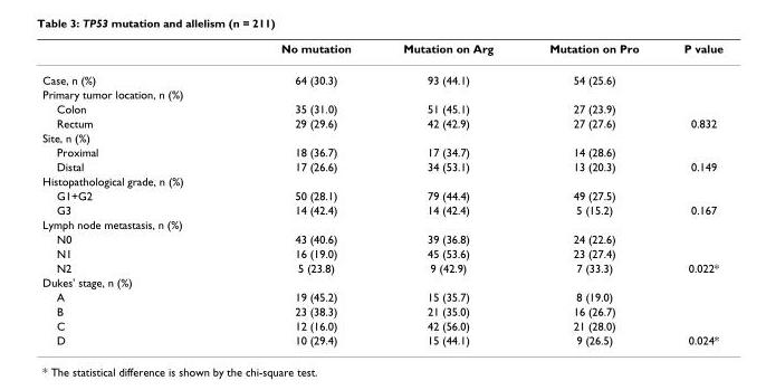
<table><thead><tr><td></td><td>No mutation</td><td>Mutation on Arg</td><td>Mutation on Pro</td><td>P value</td></tr></thead><tbody><tr><td>Case, n (%)</td><td>64 (30.3)</td><td>93 (44.1)</td><td>54 (25.6)</td><td></td></tr><tr><td colspan="5">Primary tumor location, n (%)</td></tr><tr><td>Colon</td><td>35 (31.0)</td><td>51 (45.1)</td><td>27 (23.9)</td><td></td></tr><tr><td>Rectum</td><td>29 (29.6)</td><td>42 (42.9)</td><td>27 (27.6)</td><td>0.832</td></tr><tr><td colspan="5">Site, n (%)</td></tr><tr><td>Proximal</td><td>18 (36.7)</td><td>17 (34.7)</td><td>14 (28.6)</td><td></td></tr><tr><td>Distal</td><td>17 (26.6)</td><td>34 (53.1)</td><td>13 (20.3)</td><td>0.149</td></tr><tr><td colspan="5">Histopathological grade, n (%)</td></tr><tr><td>G1+G2</td><td>50 (28.1)</td><td>79 (44.4)</td><td>49 (27.5)</td><td></td></tr><tr><td>G3</td><td>14 (42.4)</td><td>14 (42.4)</td><td>5 (15.2)</td><td>0.167</td></tr><tr><td colspan="5">Lymph node metastasis, n (%)</td></tr><tr><td>N0</td><td>43 (40.6)</td><td>39 (36.8)</td><td>24 (22.6)</td><td></td></tr><tr><td>N1</td><td>16 (19.0)</td><td>45 (53.6)</td><td>23 (27.4)</td><td></td></tr><tr><td>N2</td><td>5 (23.8)</td><td>9 (42.9)</td><td>7 (33.3)</td><td>0.022*</td></tr><tr><td colspan="5">Dukes&#x27; stage, n (%)</td></tr><tr><td>A</td><td>19 (45.2)</td><td>15 (35.7)</td><td>8 (19.0)</td><td></td></tr><tr><td>B</td><td>23 (38.3)</td><td>21 (35.0)</td><td>16 (26.7)</td><td></td></tr><tr><td>C</td><td>12 (16.0)</td><td>42 (56.0)</td><td>21 (28.0)</td><td></td></tr><tr><td>D</td><td>10 (29.4)</td><td>15 (44.1)</td><td>9 (26.5)</td><td>0.024*</td></tr></tbody></table>